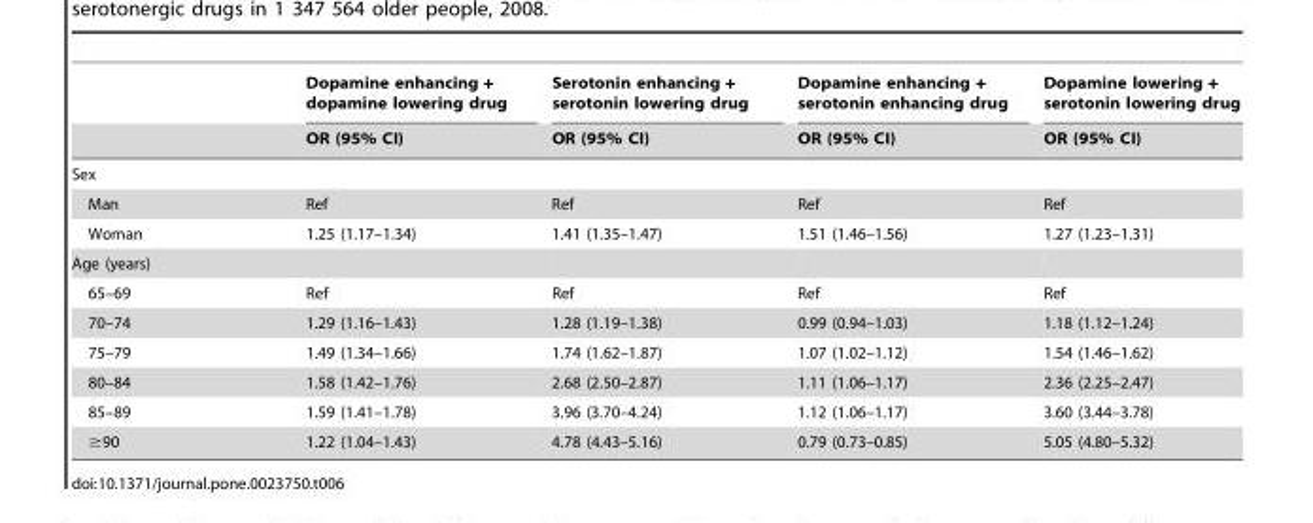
<table><thead><tr><td rowspan="2"></td><td rowspan="2">Dopamine enhancing + dopamine lowering drug OR (95% CI)</td><td rowspan="2">Serotonin enhancing + serotonin lowering drug OR (95% CI)</td><td rowspan="2">Dopamine enhancing + serotonin enhancing drug OR (95% CI)</td><td rowspan="2">Dopamine lowering + serotonin lowering drug OR (95% CI)</td></tr><tr></tr></thead><tbody><tr><td colspan="5">Sex</td></tr><tr><td>Man</td><td>Ref</td><td>Ref</td><td>Ref</td><td>Ref</td></tr><tr><td>Woman</td><td>1.25 (1.17–1.34)</td><td>1.41 (1.35–1.47)</td><td>1.51 (1.46–1.56)</td><td>1.27 (1.23–1.31)</td></tr><tr><td colspan="5">Age (years)</td></tr><tr><td>65–69</td><td>Ref</td><td>Ref</td><td>Ref</td><td>Ref</td></tr><tr><td>70–74</td><td>1.29 (1.16–1.43)</td><td>1.28 (1.19–1.38)</td><td>0.99 (0.94–1.03)</td><td>1.18 (1.12–1.24)</td></tr><tr><td>75–79</td><td>1.49 (1.34–1.66)</td><td>1.74 (1.62–1.87)</td><td>1.07 (1.02–1.12)</td><td>1.54 (1.46–1.62)</td></tr><tr><td>80–84</td><td>1.58 (1.42–1.76)</td><td>2.68 (2.50–2.87)</td><td>1.11 (1.06–1.17)</td><td>2.36 (2.25–2.47)</td></tr><tr><td>85–89</td><td>1.59 (1.41–1.78)</td><td>3.96 (3.70–4.24)</td><td>1.12 (1.06–1.17)</td><td>3.60 (3.44–3.78)</td></tr><tr><td>≥90</td><td>1.22 (1.04–1.43)</td><td>4.78 (4.43–5.16)</td><td>0.79 (0.73–0.85)</td><td>5.05 (4.80–5.32)</td></tr></tbody></table>